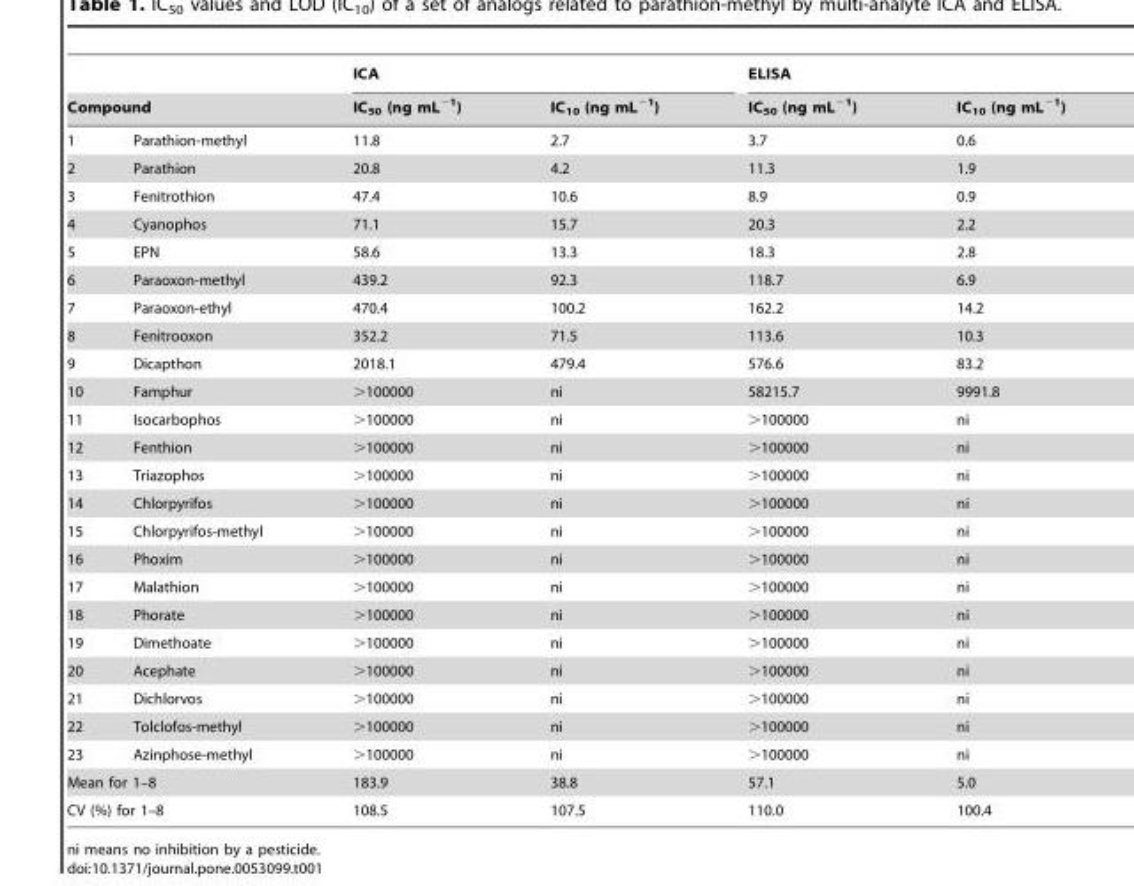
<table><thead><tr><td></td><td></td><td colspan="2">ICA</td><td colspan="2">ELISA</td></tr><tr><td colspan="2">Compound</td><td>IC<sub>50</sub> (ng mL<sup>−1</sup>)</td><td>IC<sub>10</sub> (ng mL<sup>−1</sup>)</td><td>IC<sub>50</sub> (ng mL<sup>−1</sup>)</td><td>IC<sub>10</sub> (ng mL<sup>−1</sup>)</td></tr></thead><tbody><tr><td>1</td><td>Parathion-methyl</td><td>11.8</td><td>2.7</td><td>3.7</td><td>0.6</td></tr><tr><td>2</td><td>Parathion</td><td>20.8</td><td>4.2</td><td>11.3</td><td>1.9</td></tr><tr><td>3</td><td>Fenitrothion</td><td>47.4</td><td>10.6</td><td>8.9</td><td>0.9</td></tr><tr><td>4</td><td>Cyanophos</td><td>71.1</td><td>15.7</td><td>20.3</td><td>2.2</td></tr><tr><td>5</td><td>EPN</td><td>58.6</td><td>13.3</td><td>18.3</td><td>2.8</td></tr><tr><td>6</td><td>Paraoxon-methyl</td><td>439.2</td><td>92.3</td><td>118.7</td><td>6.9</td></tr><tr><td>7</td><td>Paraoxon-ethyl</td><td>470.4</td><td>100.2</td><td>162.2</td><td>14.2</td></tr><tr><td>8</td><td>Fenitrooxon</td><td>352.2</td><td>71.5</td><td>113.6</td><td>10.3</td></tr><tr><td>9</td><td>Dicapthon</td><td>2018.1</td><td>479.4</td><td>576.6</td><td>83.2</td></tr><tr><td>10</td><td>Famphur</td><td>&gt;100000</td><td>ni</td><td>58215.7</td><td>9991.8</td></tr><tr><td>11</td><td>Isocarbophos</td><td>&gt;100000</td><td>ni</td><td>&gt;100000</td><td>ni</td></tr><tr><td>12</td><td>Fenthion</td><td>&gt;100000</td><td>ni</td><td>&gt;100000</td><td>ni</td></tr><tr><td>13</td><td>Triazophos</td><td>&gt;100000</td><td>ni</td><td>&gt;100000</td><td>ni</td></tr><tr><td>14</td><td>Chlorpyrifos</td><td>&gt;100000</td><td>ni</td><td>&gt;100000</td><td>ni</td></tr><tr><td>15</td><td>Chlorpyrifos-methyl</td><td>&gt;100000</td><td>ni</td><td>&gt;100000</td><td>ni</td></tr><tr><td>16</td><td>Phoxim</td><td>&gt;100000</td><td>ni</td><td>&gt;100000</td><td>ni</td></tr><tr><td>17</td><td>Malathion</td><td>&gt;100000</td><td>ni</td><td>&gt;100000</td><td>ni</td></tr><tr><td>18</td><td>Phorate</td><td>&gt;100000</td><td>ni</td><td>&gt;100000</td><td>ni</td></tr><tr><td>19</td><td>Dimethoate</td><td>&gt;100000</td><td>ni</td><td>&gt;100000</td><td>ni</td></tr><tr><td>20</td><td>Acephate</td><td>&gt;100000</td><td>ni</td><td>&gt;100000</td><td>ni</td></tr><tr><td>21</td><td>Dichlorvos</td><td>&gt;100000</td><td>ni</td><td>&gt;100000</td><td>ni</td></tr><tr><td>22</td><td>Tolclofos-methyl</td><td>&gt;100000</td><td>ni</td><td>&gt;100000</td><td>ni</td></tr><tr><td>23</td><td>Azinphose-methyl</td><td>&gt;100000</td><td>ni</td><td>&gt;100000</td><td>ni</td></tr><tr><td colspan="2">Mean for 1–8</td><td>183.9</td><td>38.8</td><td>57.1</td><td>5.0</td></tr><tr><td colspan="2">CV (%) for 1–8</td><td>108.5</td><td>107.5</td><td>110.0</td><td>100.4</td></tr></tbody></table>